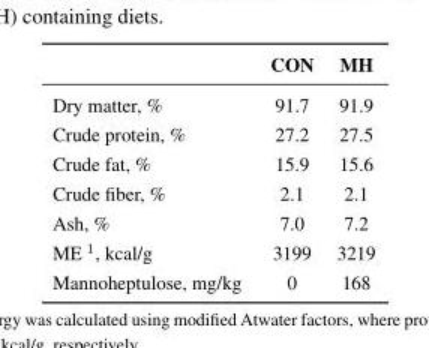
<table><thead><tr><td></td><td>CON</td><td>MH</td></tr></thead><tbody><tr><td>Dry matter, %</td><td>91.7</td><td>91.9</td></tr><tr><td>Crude protein, %</td><td>27.2</td><td>27.5</td></tr><tr><td>Crude fat, %</td><td>15.9</td><td>15.6</td></tr><tr><td>Crude fiber, %</td><td>2.1</td><td>2.1</td></tr><tr><td>Ash, %</td><td>7.0</td><td>7.2</td></tr><tr><td>ME <sup>1</sup>, kcal/g</td><td>3199</td><td>3219</td></tr><tr><td>Mannoheptulose, mg/kg</td><td>0</td><td>168</td></tr></tbody></table>